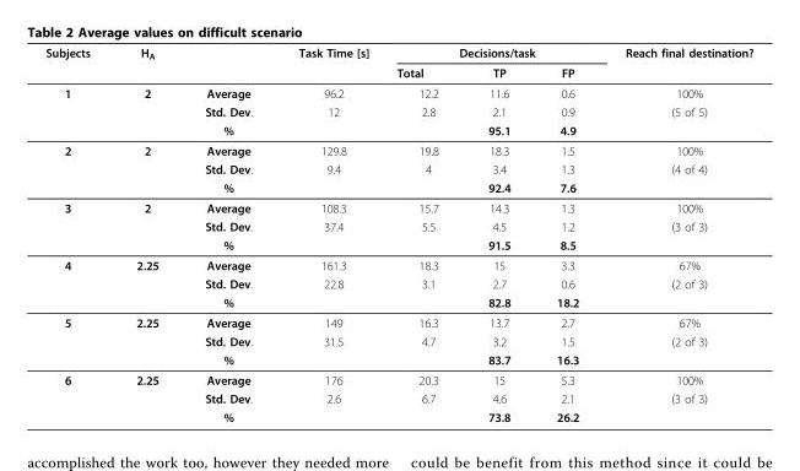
<table><thead><tr><td rowspan="2">Subjects</td><td rowspan="2">H<sub>A</sub></td><td rowspan="2"></td><td rowspan="2">Task Time [s]</td><td colspan="3">Decisions/task</td><td rowspan="2">Reach final destination?</td></tr><tr><td>Total</td><td>TP</td><td>FP</td></tr></thead><tbody><tr><td rowspan="3">1</td><td>2</td><td>Average</td><td>96.2</td><td>12.2</td><td>11.6</td><td>0.6</td><td>100%</td></tr><tr><td></td><td>Std. Dev.</td><td>12</td><td>2.8</td><td>2.1</td><td>0.9</td><td>(5 of 5)</td></tr><tr><td></td><td>%</td><td></td><td></td><td>95.1</td><td>4.9</td><td></td></tr><tr><td rowspan="3">2</td><td>2</td><td>Average</td><td>129.8</td><td>19.8</td><td>18.3</td><td>1.5</td><td>100%</td></tr><tr><td></td><td>Std. Dev.</td><td>9.4</td><td>4</td><td>3.4</td><td>1.3</td><td>(4 of 4)</td></tr><tr><td></td><td>%</td><td></td><td></td><td>92.4</td><td>7.6</td><td></td></tr><tr><td rowspan="3">3</td><td>2</td><td>Average</td><td>108.3</td><td>15.7</td><td>14.3</td><td>1.3</td><td>100%</td></tr><tr><td></td><td>Std. Dev.</td><td>37.4</td><td>5.5</td><td>4.5</td><td>1.2</td><td>(3 of 3)</td></tr><tr><td></td><td>%</td><td></td><td></td><td>91.5</td><td>8.5</td><td></td></tr><tr><td rowspan="3">4</td><td>2.25</td><td>Average</td><td>161.3</td><td>18.3</td><td>15</td><td>3.3</td><td>67%</td></tr><tr><td></td><td>Std. Dev.</td><td>22.8</td><td>3.1</td><td>2.7</td><td>0.6</td><td>(2 of 3)</td></tr><tr><td></td><td>%</td><td></td><td></td><td>82.8</td><td>18.2</td><td></td></tr><tr><td rowspan="3">5</td><td>2.25</td><td>Average</td><td>149</td><td>16.3</td><td>13.7</td><td>2.7</td><td>67%</td></tr><tr><td></td><td>Std. Dev.</td><td>31.5</td><td>4.7</td><td>3.2</td><td>1.5</td><td>(2 of 3)</td></tr><tr><td></td><td>%</td><td></td><td></td><td>83.7</td><td>16.3</td><td></td></tr><tr><td rowspan="3">6</td><td>2.25</td><td>Average</td><td>176</td><td>20.3</td><td>15</td><td>5.3</td><td>100%</td></tr><tr><td></td><td>Std. Dev.</td><td>2.6</td><td>6.7</td><td>4.6</td><td>2.1</td><td>(3 of 3)</td></tr><tr><td></td><td>%</td><td></td><td></td><td>73.8</td><td>26.2</td><td></td></tr></tbody></table>